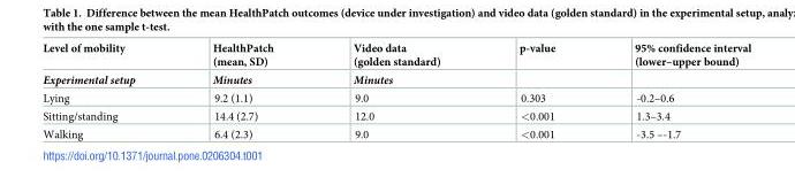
<table><thead><tr><td rowspan="2">Level of mobility Experimental setup</td><td rowspan="2">HealthPatch (mean, SD) Minutes</td><td rowspan="2">Video data (golden standard) Minutes</td><td rowspan="2">p-value</td><td rowspan="2">95% confidence interval (lower–upper bound)</td></tr><tr></tr></thead><tbody><tr><td>Lying</td><td>9.2 (1.1)</td><td>9.0</td><td>0.303</td><td>-0.2–0.6</td></tr><tr><td>Sitting/standing</td><td>14.4 (2.7)</td><td>12.0</td><td>&lt;0.001</td><td>1.3–3.4</td></tr><tr><td>Walking</td><td>6.4 (2.3)</td><td>9.0</td><td>&lt;0.001</td><td>-3.5 –-1.7</td></tr></tbody></table>